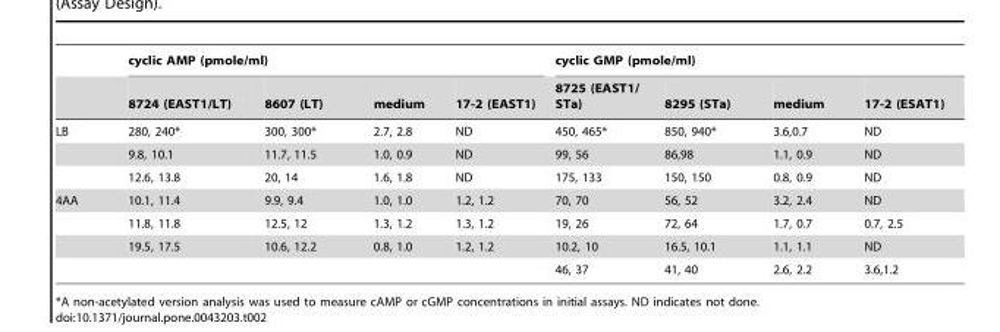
<table><thead><tr><td rowspan="2"></td><td colspan="4">cyclic AMP (pmole/ml)</td><td colspan="4">cyclic GMP (pmole/ml)</td></tr><tr><td>8724 (EAST1/LT)</td><td>8607 (LT)</td><td>medium</td><td>17-2 (EAST1)</td><td>8725 (EAST1/ STa)</td><td>8295 (STa)</td><td>medium</td><td>17-2 (ESAT1)</td></tr></thead><tbody><tr><td rowspan="3">LB</td><td>280, 240*</td><td>300, 300*</td><td>2.7, 2.8</td><td>ND</td><td>450, 465*</td><td>850, 940*</td><td>3.6,0.7</td><td>ND</td></tr><tr><td>9.8, 10.1</td><td>11.7, 11.5</td><td>1.0, 0.9</td><td>ND</td><td>99, 56</td><td>86,98</td><td>1.1, 0.9</td><td>ND</td></tr><tr><td>12.6, 13.8</td><td>20, 14</td><td>1.6, 1.8</td><td>ND</td><td>175, 133</td><td>150, 150</td><td>0.8, 0.9</td><td>ND</td></tr><tr><td rowspan="4">4AA</td><td>10.1, 11.4</td><td>9.9, 9.4</td><td>1.0, 1.0</td><td>1.2, 1.2</td><td>70, 70</td><td>56, 52</td><td>3.2, 2.4</td><td>ND</td></tr><tr><td>11.8, 11.8</td><td>12.5, 12</td><td>1.3, 1.2</td><td>1.3, 1.2</td><td>19, 26</td><td>72, 64</td><td>1.7, 0.7</td><td>0.7, 2.5</td></tr><tr><td>19.5, 17.5</td><td>10.6, 12.2</td><td>0.8, 1.0</td><td>1.2, 1.2</td><td>10.2, 10</td><td>16.5, 10.1</td><td>1.1, 1.1</td><td>ND</td></tr><tr><td></td><td></td><td></td><td></td><td>46, 37</td><td>41, 40</td><td>2.6, 2.2</td><td>3.6,1.2</td></tr></tbody></table>